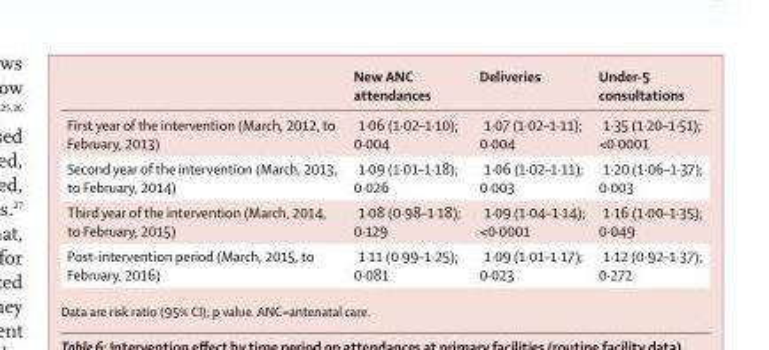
<table><thead><tr><td></td><td>New ANC attendances</td><td>Deliveries</td><td>Under-5 consultations</td></tr></thead><tbody><tr><td>First year of the intervention (March, 2012, to February, 2013)</td><td>1·06 (1·02–1·10); 0·004</td><td>1·07 (1·02–1·11); 0·004</td><td>1·35 (1·20–1·51); &lt;0·0001</td></tr><tr><td>Second year of the intervention (March, 2013, to February, 2014)</td><td>1·09 (1·01–1·18); 0·026</td><td>1·06 (1·02–1·11); 0·003</td><td>1·20 (1·06–1·37); 0·003</td></tr><tr><td>Third year of the intervention (March, 2014, to February, 2015)</td><td>1·08 (0·98–1·18); 0·129</td><td>1·09 (1·04–1·14); &lt;0·0001</td><td>1·16 (1·00–1·35); 0·049</td></tr><tr><td>Post-intervention period (March, 2015, to February, 2016)</td><td>1·11 (0·99–1·25); 0·081</td><td>1·09 (1·01–1·17); 0·023</td><td>1·12 (0·92–1·37); 0·272</td></tr></tbody></table>